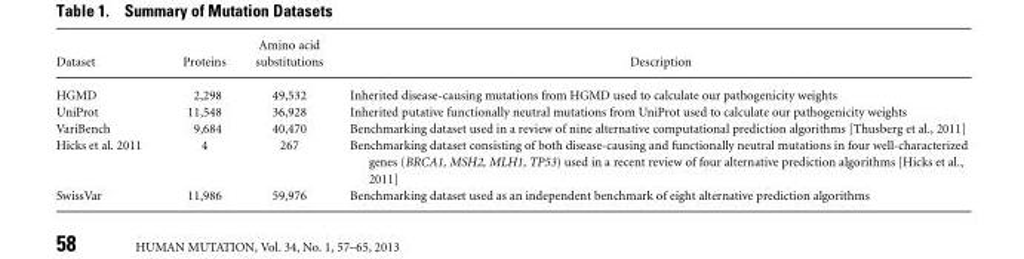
<table><thead><tr><td>Dataset</td><td>Proteins</td><td>substitutions</td><td>Description</td></tr></thead><tbody><tr><td>HGMD</td><td>2,298</td><td>49,532</td><td>Inherited disease-causing mutations from HGMD used to calculate our pathogenicity weights</td></tr><tr><td>UniProt</td><td>11,548</td><td>36,928</td><td>Inherited putative functionally neutral mutations from UniProt used to calculate our pathogenicity weights</td></tr><tr><td>VariBench</td><td>9,684</td><td>40,470</td><td>Benchmarking dataset used in a review of nine alternative computational prediction algorithms [Thusberg et al., 2011]</td></tr><tr><td>Hicks et al. 2011</td><td>4</td><td>267</td><td>Benchmarking dataset consisting of both disease-causing and functionally neutral mutations in four well-characterized genes (BRCA1, MSH2, MLH1, TP53) used in a recent review of four alternative prediction algorithms [Hicks et al., 2011]</td></tr><tr><td>SwissVar</td><td>11,986</td><td>59,976</td><td>Benchmarking dataset used as an independent benchmark of eight alternative prediction algorithms</td></tr></tbody></table>